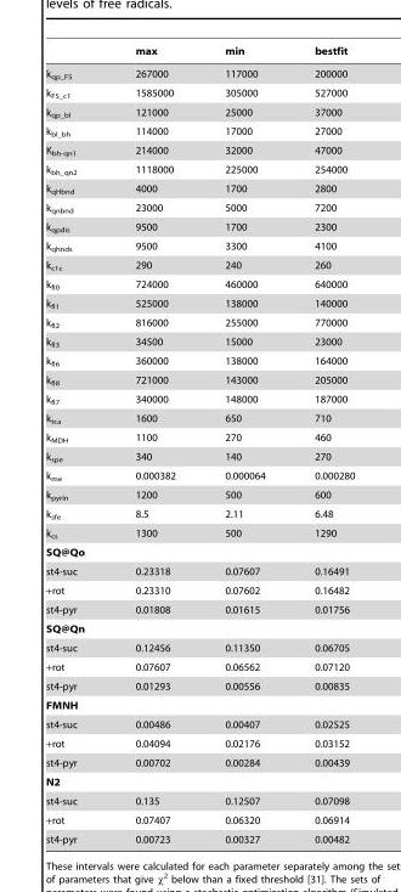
<table><thead><tr><td></td><td>max</td><td>min</td><td>bestfit</td></tr></thead><tbody><tr><td>k<sub>qp_FS</sub></td><td>267000</td><td>117000</td><td>200000</td></tr><tr><td>k<sub>FS_c1</sub></td><td>1585000</td><td>305000</td><td>527000</td></tr><tr><td>k<sub>qp_bl</sub></td><td>121000</td><td>25000</td><td>37000</td></tr><tr><td>k<sub>bl_bh</sub></td><td>114000</td><td>17000</td><td>27000</td></tr><tr><td>K<sub>bh-qn1</sub></td><td>214000</td><td>32000</td><td>47000</td></tr><tr><td>k<sub>bh_qn2</sub></td><td>1118000</td><td>225000</td><td>254000</td></tr><tr><td>k<sub>qHbnd</sub></td><td>4000</td><td>1700</td><td>2800</td></tr><tr><td>k<sub>qnbnd</sub></td><td>23000</td><td>5000</td><td>7200</td></tr><tr><td>k<sub>qpdis</sub></td><td>9500</td><td>1700</td><td>2300</td></tr><tr><td>k<sub>qhnds</sub></td><td>9500</td><td>3300</td><td>4100</td></tr><tr><td>k<sub>c1c</sub></td><td>290</td><td>240</td><td>260</td></tr><tr><td>k<sub>fI0</sub></td><td>724000</td><td>460000</td><td>640000</td></tr><tr><td>k<sub>fI1</sub></td><td>525000</td><td>138000</td><td>140000</td></tr><tr><td>k<sub>fI2</sub></td><td>816000</td><td>255000</td><td>770000</td></tr><tr><td>k<sub>fI3</sub></td><td>34500</td><td>15000</td><td>23000</td></tr><tr><td>k<sub>fI6</sub></td><td>360000</td><td>138000</td><td>164000</td></tr><tr><td>k<sub>fI8</sub></td><td>721000</td><td>143000</td><td>205000</td></tr><tr><td>k<sub>fI7</sub></td><td>340000</td><td>148000</td><td>187000</td></tr><tr><td>k<sub>tca</sub></td><td>1600</td><td>650</td><td>710</td></tr><tr><td>k<sub>MDH</sub></td><td>1100</td><td>270</td><td>460</td></tr><tr><td>k<sub>spe</sub></td><td>340</td><td>140</td><td>270</td></tr><tr><td>k<sub>me</sub></td><td>0.000382</td><td>0.000064</td><td>0.000280</td></tr><tr><td>k<sub>pyrIn</sub></td><td>1200</td><td>500</td><td>600</td></tr><tr><td>k<sub>sfe</sub></td><td>8.5</td><td>2.11</td><td>6.48</td></tr><tr><td>k<sub>cs</sub></td><td>1300</td><td>500</td><td>1290</td></tr><tr><td colspan="4">SQ@Qo</td></tr><tr><td>st4-suc</td><td>0.23318</td><td>0.07607</td><td>0.16491</td></tr><tr><td>+rot</td><td>0.23310</td><td>0.07602</td><td>0.16482</td></tr><tr><td>st4-pyr</td><td>0.01808</td><td>0.01615</td><td>0.01756</td></tr><tr><td colspan="4">SQ@Qn</td></tr><tr><td>st4-suc</td><td>0.12456</td><td>0.11350</td><td>0.06705</td></tr><tr><td>+rot</td><td>0.07607</td><td>0.06562</td><td>0.07120</td></tr><tr><td>st4-pyr</td><td>0.01293</td><td>0.00556</td><td>0.00835</td></tr><tr><td colspan="4">FMNH</td></tr><tr><td>st4-suc</td><td>0.00486</td><td>0.00407</td><td>0.02525</td></tr><tr><td>+rot</td><td>0.04094</td><td>0.02176</td><td>0.03152</td></tr><tr><td>st4-pyr</td><td>0.00702</td><td>0.00284</td><td>0.00439</td></tr><tr><td colspan="4">N2</td></tr><tr><td>st4-suc</td><td>0.135</td><td>0.12507</td><td>0.07098</td></tr><tr><td>+rot</td><td>0.07407</td><td>0.06320</td><td>0.06914</td></tr><tr><td>st4-pyr</td><td>0.00723</td><td>0.00327</td><td>0.00482</td></tr></tbody></table>